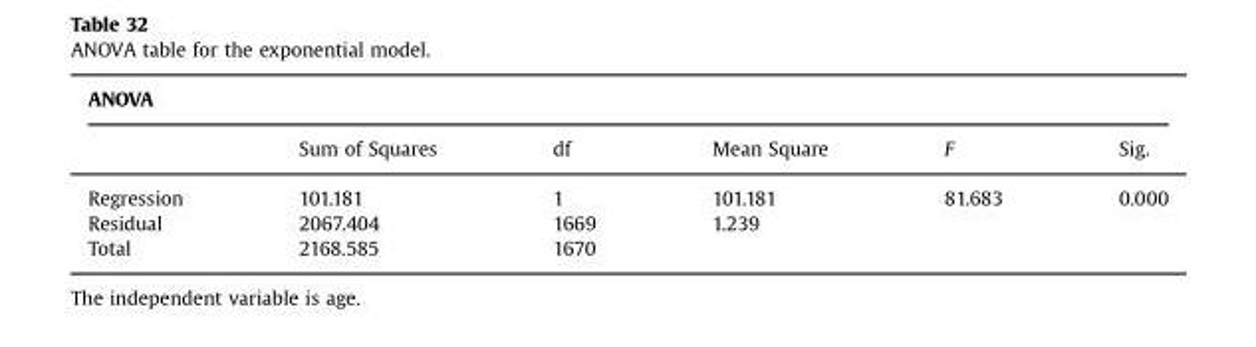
<table><thead><tr><td colspan="6">ANOVA</td></tr><tr><td></td><td>Sum of Squares</td><td>df</td><td>Mean Square</td><td>F</td><td>Sig.</td></tr></thead><tbody><tr><td>Regression</td><td>101.181</td><td>1</td><td>101.181</td><td>81.683</td><td>0.000</td></tr><tr><td>Residual</td><td>2067.404</td><td>1669</td><td>1.239</td><td></td><td></td></tr><tr><td>Total</td><td>2168.585</td><td>1670</td><td></td><td></td><td></td></tr></tbody></table>